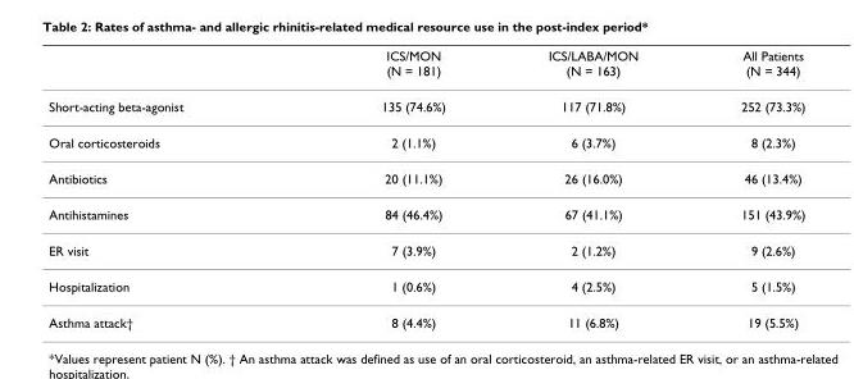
<table><thead><tr><td></td><td>ICS/MON (N = 181)</td><td>ICS/LABA/MON (N = 163)</td><td>All Patients (N = 344)</td></tr></thead><tbody><tr><td>Short-acting beta-agonist</td><td>135 (74.6%)</td><td>117 (71.8%)</td><td>252 (73.3%)</td></tr><tr><td>Oral corticosteroids</td><td>2 (1.1%)</td><td>6 (3.7%)</td><td>8 (2.3%)</td></tr><tr><td>Antibiotics</td><td>20 (11.1%)</td><td>26 (16.0%)</td><td>46 (13.4%)</td></tr><tr><td>Antihistamines</td><td>84 (46.4%)</td><td>67 (41.1%)</td><td>151 (43.9%)</td></tr><tr><td>ER visit</td><td>7 (3.9%)</td><td>2 (1.2%)</td><td>9 (2.6%)</td></tr><tr><td>Hospitalization</td><td>1 (0.6%)</td><td>4 (2.5%)</td><td>5 (1.5%)</td></tr><tr><td>Asthma attack†</td><td>8 (4.4%)</td><td>11 (6.8%)</td><td>19 (5.5%)</td></tr></tbody></table>